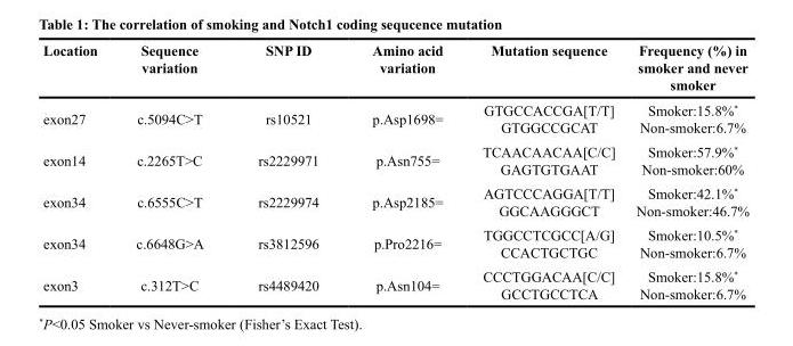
<table><thead><tr><td>Location</td><td>Sequence variation</td><td>SNP ID</td><td>Amino acid variation</td><td>Mutation sequence</td><td>Frequency (%) in smoker and never smoker</td></tr></thead><tbody><tr><td>exon27</td><td>c.5094C&gt;T</td><td>rs10521</td><td>p.Asp1698=</td><td>GTGCCACCGA[T/T] GTGGCCGCAT</td><td>Smoker:15.8%* Non-smoker:6.7%</td></tr><tr><td>exon14</td><td>c.2265T&gt;C</td><td>rs2229971</td><td>p.Asn755=</td><td>TCAACAACAA[C/C] GAGTGTGAAT</td><td>Smoker:57.9%* Non-smoker:60%</td></tr><tr><td>exon34</td><td>c.6555C&gt;T</td><td>rs2229974</td><td>p.Asp2185=</td><td>AGTCCCAGGA[T/T] GGCAAGGGCT</td><td>Smoker:42.1%* Non-smoker:46.7%</td></tr><tr><td>exon34</td><td>c.6648G&gt;A</td><td>rs3812596</td><td>p.Pro2216=</td><td>TGGCCTCGCC[A/G] CCACTGCTGC</td><td>Smoker:10.5%* Non-smoker:6.7%</td></tr><tr><td>exon3</td><td>c.312T&gt;C</td><td>rs4489420</td><td>p.Asn104=</td><td>CCCTGGACAA[C/C] GCCTGCCTCA</td><td>Smoker:15.8%* Non-smoker:6.7%</td></tr></tbody></table>